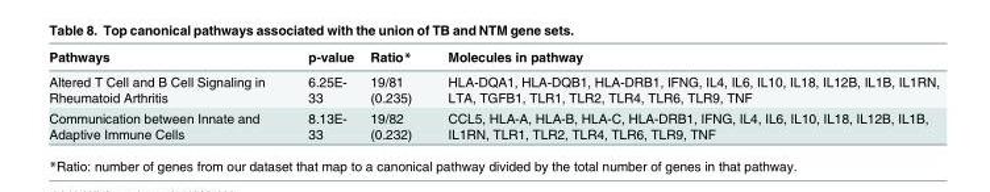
<table><thead><tr><td>Pathways</td><td>p-value</td><td>Ratio*</td><td>Molecules in pathway</td></tr></thead><tbody><tr><td>Altered T Cell and B Cell Signaling in Rheumatoid Arthritis</td><td>6.25E- 33</td><td>19/81 (0.235)</td><td>HLA-DQA1, HLA-DQB1, HLA-DRB1, IFNG, IL4, IL6, IL10, IL18, IL12B, IL1B, IL1RN, LTA, TGFB1, TLR1, TLR2, TLR4, TLR6, TLR9, TNF</td></tr><tr><td>Communication between Innate and Adaptive Immune Cells</td><td>8.13E- 33</td><td>19/82 (0.232)</td><td>CCL5, HLA-A, HLA-B, HLA-C, HLA-DRB1, IFNG, IL4, IL6, IL10, IL18, IL12B, IL1B, IL1RN, TLR1, TLR2, TLR4, TLR6, TLR9, TNF</td></tr></tbody></table>